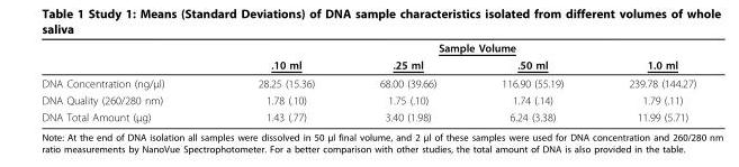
<table><thead><tr><td rowspan="2"></td><td colspan="4">Sample Volume</td></tr><tr><td>.10 ml</td><td>.25 ml</td><td>.50 ml</td><td>1.0 ml</td></tr></thead><tbody><tr><td>DNA Concentration (ng/μl)</td><td>28.25 (15.36)</td><td>68.00 (39.66)</td><td>116.90 (55.19)</td><td>239.78 (144.27)</td></tr><tr><td>DNA Quality (260/280 nm)</td><td>1.78 (.10)</td><td>1.75 (.10)</td><td>1.74 (.14)</td><td>1.79 (.11)</td></tr><tr><td>DNA Total Amount (μg)</td><td>1.43 (.77)</td><td>3.40 (1.98)</td><td>6.24 (3.38)</td><td>11.99 (5.71)</td></tr></tbody></table>